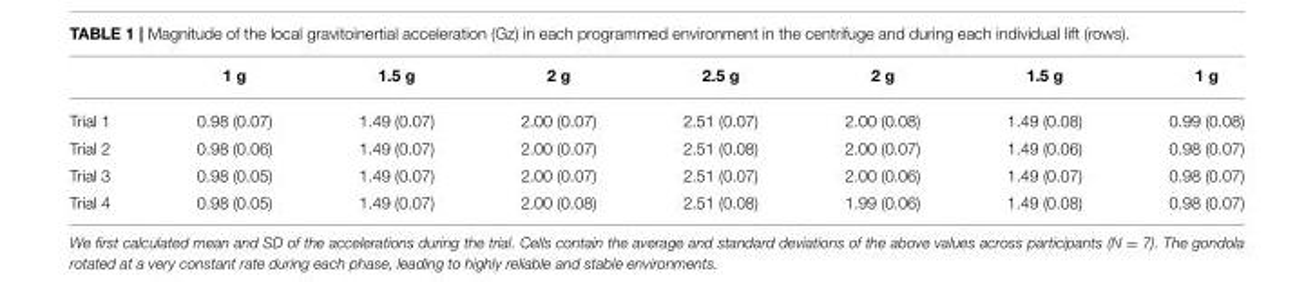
<table><thead><tr><td></td><td>1 g</td><td>1.5 g</td><td>2 g</td><td>2.5 g</td><td>2 g</td><td>1.5 g</td><td>1 g</td></tr></thead><tbody><tr><td>Trial 1</td><td>0.98 (0.07)</td><td>1.49 (0.07)</td><td>2.00 (0.07)</td><td>2.51 (0.07)</td><td>2.00 (0.08)</td><td>1.49 (0.08)</td><td>0.99 (0.08)</td></tr><tr><td>Trial 2</td><td>0.98 (0.06)</td><td>1.49 (0.07)</td><td>2.00 (0.07)</td><td>2.51 (0.08)</td><td>2.00 (0.07)</td><td>1.49 (0.06)</td><td>0.98 (0.07)</td></tr><tr><td>Trial 3</td><td>0.98 (0.05)</td><td>1.49 (0.07)</td><td>2.00 (0.07)</td><td>2.51 (0.07)</td><td>2.00 (0.06)</td><td>1.49 (0.07)</td><td>0.98 (0.07)</td></tr><tr><td>Trial 4</td><td>0.98 (0.05)</td><td>1.49 (0.07)</td><td>2.00 (0.08)</td><td>2.51 (0.08)</td><td>1.99 (0.06)</td><td>1.49 (0.08)</td><td>0.98 (0.07)</td></tr></tbody></table>